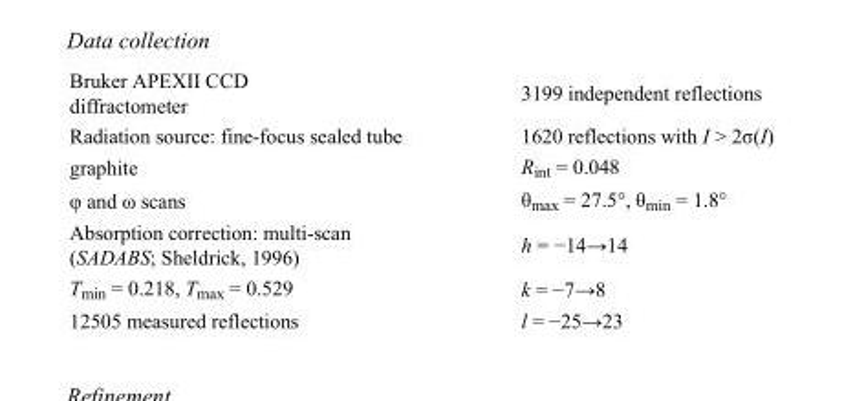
<table><tbody><tr><td>Bruker APEXII CCD diffractometer</td><td>3199 independent reflections</td></tr><tr><td>Radiation source: fine-focus sealed tube</td><td>1620 reflections with I &gt; 2σ(I)</td></tr><tr><td>graphite</td><td>R<sub>int</sub> = 0.048</td></tr><tr><td>φ and ω scans</td><td>θ<sub>max</sub> = 27.5°, θ<sub>min</sub> = 1.8°</td></tr><tr><td>Absorption correction: multi-scan (SADABS; Sheldrick, 1996)</td><td>h = −14→14</td></tr><tr><td>T<sub>min</sub> = 0.218, T<sub>max</sub> = 0.529</td><td>k = −7→8</td></tr><tr><td>12505 measured reflections</td><td>l = −25→23</td></tr></tbody></table>